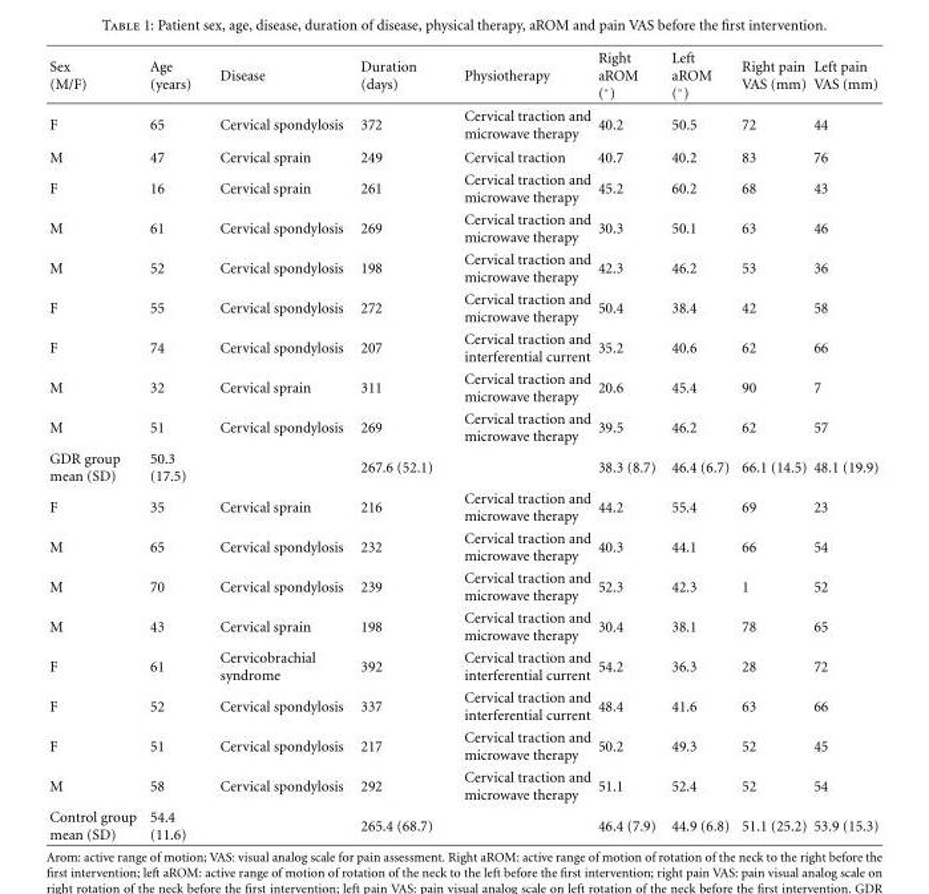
<table><thead><tr><td>Sex (M/F)</td><td>Age (years)</td><td>Disease</td><td>Duration (days)</td><td>Physiotherapy</td><td>Right aROM (◦)</td><td>Left aROM (◦)</td><td>Right pain VAS (mm)</td><td>Left pain VAS (mm)</td></tr></thead><tbody><tr><td>F</td><td>65</td><td>Cervical spondylosis</td><td>372</td><td>Cervical traction and microwave therapy</td><td>40.2</td><td>50.5</td><td>72</td><td>44</td></tr><tr><td>M</td><td>47</td><td>Cervical sprain</td><td>249</td><td>Cervical traction</td><td>40.7</td><td>40.2</td><td>83</td><td>76</td></tr><tr><td>F</td><td>16</td><td>Cervical sprain</td><td>261</td><td>Cervical traction and microwave therapy</td><td>45.2</td><td>60.2</td><td>68</td><td>43</td></tr><tr><td>M</td><td>61</td><td>Cervical spondylosis</td><td>269</td><td>Cervical traction and microwave therapy</td><td>30.3</td><td>50.1</td><td>63</td><td>46</td></tr><tr><td>M</td><td>52</td><td>Cervical spondylosis</td><td>198</td><td>Cervical traction and microwave therapy</td><td>42.3</td><td>46.2</td><td>53</td><td>36</td></tr><tr><td>F</td><td>55</td><td>Cervical spondylosis</td><td>272</td><td>Cervical traction and microwave therapy</td><td>50.4</td><td>38.4</td><td>42</td><td>58</td></tr><tr><td>F</td><td>74</td><td>Cervical spondylosis</td><td>207</td><td>Cervical traction and interferential current</td><td>35.2</td><td>40.6</td><td>62</td><td>66</td></tr><tr><td>M</td><td>32</td><td>Cervical sprain</td><td>311</td><td>Cervical traction and microwave therapy</td><td>20.6</td><td>45.4</td><td>90</td><td>7</td></tr><tr><td>M</td><td>51</td><td>Cervical spondylosis</td><td>269</td><td>Cervical traction and microwave therapy</td><td>39.5</td><td>46.2</td><td>62</td><td>57</td></tr><tr><td>GDR group mean (SD)</td><td>50.3 (17.5)</td><td></td><td>267.6 (52.1)</td><td></td><td>38.3 (8.7)</td><td>46.4 (6.7)</td><td>66.1 (14.5)</td><td>48.1 (19.9)</td></tr><tr><td>F</td><td>35</td><td>Cervical sprain</td><td>216</td><td>Cervical traction and microwave therapy</td><td>44.2</td><td>55.4</td><td>69</td><td>23</td></tr><tr><td>M</td><td>65</td><td>Cervical spondylosis</td><td>232</td><td>Cervical traction and microwave therapy</td><td>40.3</td><td>44.1</td><td>66</td><td>54</td></tr><tr><td>M</td><td>70</td><td>Cervical spondylosis</td><td>239</td><td>Cervical traction and microwave therapy</td><td>52.3</td><td>42.3</td><td>1</td><td>52</td></tr><tr><td>M</td><td>43</td><td>Cervical sprain</td><td>198</td><td>Cervical traction and microwave therapy</td><td>30.4</td><td>38.1</td><td>78</td><td>65</td></tr><tr><td>F</td><td>61</td><td>Cervicobrachial syndrome</td><td>392</td><td>Cervical traction and interferential current</td><td>54.2</td><td>36.3</td><td>28</td><td>72</td></tr><tr><td>F</td><td>52</td><td>Cervical spondylosis</td><td>337</td><td>Cervical traction and interferential current</td><td>48.4</td><td>41.6</td><td>63</td><td>66</td></tr><tr><td>F</td><td>51</td><td>Cervical spondylosis</td><td>217</td><td>Cervical traction and microwave therapy</td><td>50.2</td><td>49.3</td><td>52</td><td>45</td></tr><tr><td>M</td><td>58</td><td>Cervical spondylosis</td><td>292</td><td>Cervical traction and microwave therapy</td><td>51.1</td><td>52.4</td><td>52</td><td>54</td></tr><tr><td>Control group mean (SD)</td><td>54.4 (11.6)</td><td></td><td>265.4 (68.7)</td><td></td><td>46.4 (7.9)</td><td>44.9 (6.8)</td><td>51.1 (25.2)</td><td>53.9 (15.3)</td></tr></tbody></table>